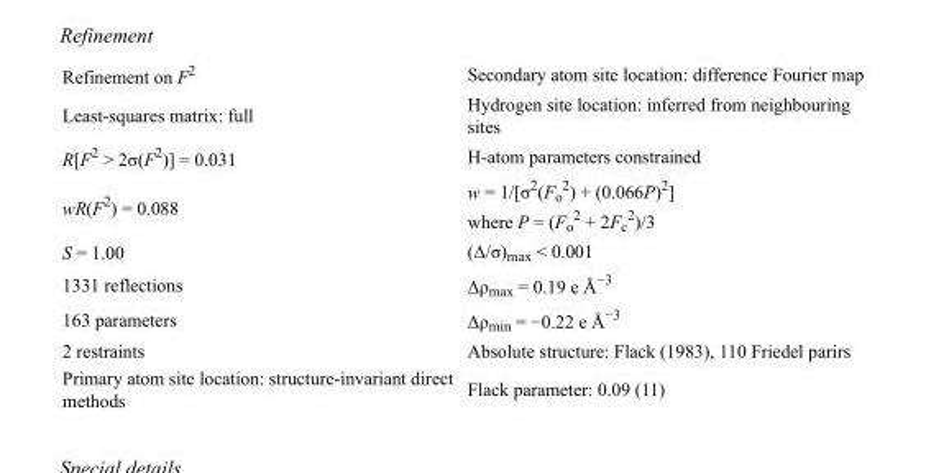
<table><tbody><tr><td>Refinement on F<sup>2</sup></td><td>Secondary atom site location: difference Fourier map</td></tr><tr><td>Least-squares matrix: full</td><td>Hydrogen site location: inferred from neighbouring sites</td></tr><tr><td>R[F<sup>2</sup> &gt; 2σ(F<sup>2</sup>)] = 0.031</td><td>H-atom parameters constrained</td></tr><tr><td>wR(F<sup>2</sup>) = 0.088</td><td>w = 1/[σ<sup>2</sup>(F<sub>o</sub> <sup>2</sup>) + (0.066P)<sup>2</sup>] where P = (F<sub>o</sub> <sup>2</sup> + 2F<sub>c</sub> <sup>2</sup>)/3</td></tr><tr><td>S = 1.00</td><td>(Δ/σ)<sub>max</sub> &lt; 0.001</td></tr><tr><td>1331 reflections</td><td>Δρ<sub>max</sub> = 0.19 e Å<sup>−3</sup></td></tr><tr><td>163 parameters</td><td>Δρ<sub>min</sub> = −0.22 e Å<sup>−3</sup></td></tr><tr><td>2 restraints</td><td>Absolute structure: Flack (1983), 110 Friedel parirs</td></tr><tr><td>Primary atom site location: structure-invariant direct methods</td><td>Flack parameter: 0.09 (11)</td></tr></tbody></table>